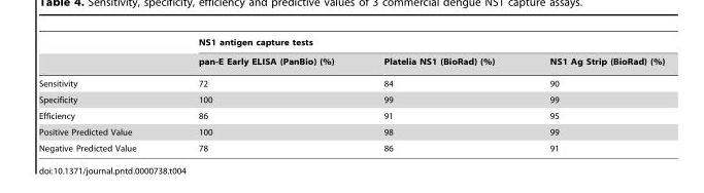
<table><thead><tr><td rowspan="2"></td><td colspan="3">NS1 antigen capture tests</td></tr><tr><td>pan-E Early ELISA (PanBio) (%)</td><td>Platelia NS1 (BioRad) (%)</td><td>NS1 Ag Strip (BioRad) (%)</td></tr></thead><tbody><tr><td>Sensitivity</td><td>72</td><td>84</td><td>90</td></tr><tr><td>Specificity</td><td>100</td><td>99</td><td>99</td></tr><tr><td>Efficiency</td><td>86</td><td>91</td><td>95</td></tr><tr><td>Positive Predicted Value</td><td>100</td><td>98</td><td>99</td></tr><tr><td>Negative Predicted Value</td><td>78</td><td>86</td><td>91</td></tr></tbody></table>